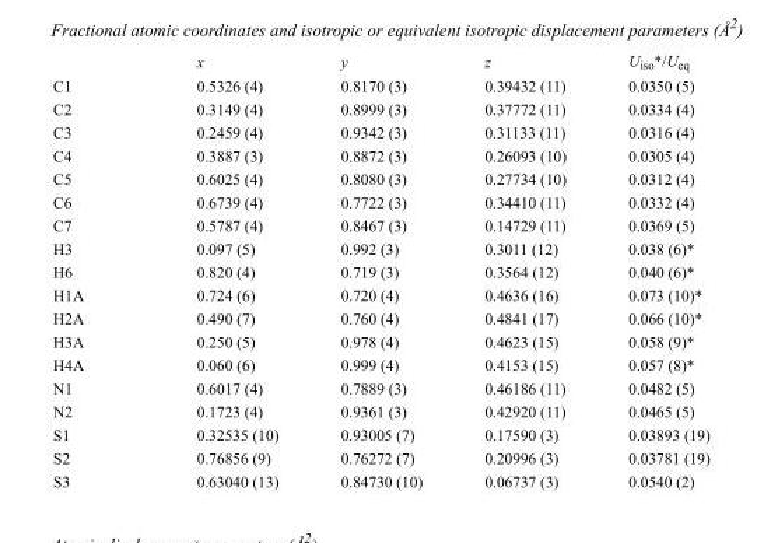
<table><thead><tr><td></td><td>x</td><td>y</td><td>z</td><td>U<sub>iso</sub>*/U<sub>eq</sub></td></tr></thead><tbody><tr><td>C1</td><td>0.5326 (4)</td><td>0.8170 (3)</td><td>0.39432 (11)</td><td>0.0350 (5)</td></tr><tr><td>C2</td><td>0.3149 (4)</td><td>0.8999 (3)</td><td>0.37772 (11)</td><td>0.0334 (4)</td></tr><tr><td>C3</td><td>0.2459 (4)</td><td>0.9342 (3)</td><td>0.31133 (11)</td><td>0.0316 (4)</td></tr><tr><td>C4</td><td>0.3887 (3)</td><td>0.8872 (3)</td><td>0.26093 (10)</td><td>0.0305 (4)</td></tr><tr><td>C5</td><td>0.6025 (4)</td><td>0.8080 (3)</td><td>0.27734 (10)</td><td>0.0312 (4)</td></tr><tr><td>C6</td><td>0.6739 (4)</td><td>0.7722 (3)</td><td>0.34410 (11)</td><td>0.0332 (4)</td></tr><tr><td>C7</td><td>0.5787 (4)</td><td>0.8467 (3)</td><td>0.14729 (11)</td><td>0.0369 (5)</td></tr><tr><td>H3</td><td>0.097 (5)</td><td>0.992 (3)</td><td>0.3011 (12)</td><td>0.038 (6)*</td></tr><tr><td>H6</td><td>0.820 (4)</td><td>0.719 (3)</td><td>0.3564 (12)</td><td>0.040 (6)*</td></tr><tr><td>H1A</td><td>0.724 (6)</td><td>0.720 (4)</td><td>0.4636 (16)</td><td>0.073 (10)*</td></tr><tr><td>H2A</td><td>0.490 (7)</td><td>0.760 (4)</td><td>0.4841 (17)</td><td>0.066 (10)*</td></tr><tr><td>H3A</td><td>0.250 (5)</td><td>0.978 (4)</td><td>0.4623 (15)</td><td>0.058 (9)*</td></tr><tr><td>H4A</td><td>0.060 (6)</td><td>0.999 (4)</td><td>0.4153 (15)</td><td>0.057 (8)*</td></tr><tr><td>N1</td><td>0.6017 (4)</td><td>0.7889 (3)</td><td>0.46186 (11)</td><td>0.0482 (5)</td></tr><tr><td>N2</td><td>0.1723 (4)</td><td>0.9361 (3)</td><td>0.42920 (11)</td><td>0.0465 (5)</td></tr><tr><td>S1</td><td>0.32535 (10)</td><td>0.93005 (7)</td><td>0.17590 (3)</td><td>0.03893 (19)</td></tr><tr><td>S2</td><td>0.76856 (9)</td><td>0.76272 (7)</td><td>0.20996 (3)</td><td>0.03781 (19)</td></tr><tr><td>S3</td><td>0.63040 (13)</td><td>0.84730 (10)</td><td>0.06737 (3)</td><td>0.0540 (2)</td></tr></tbody></table>